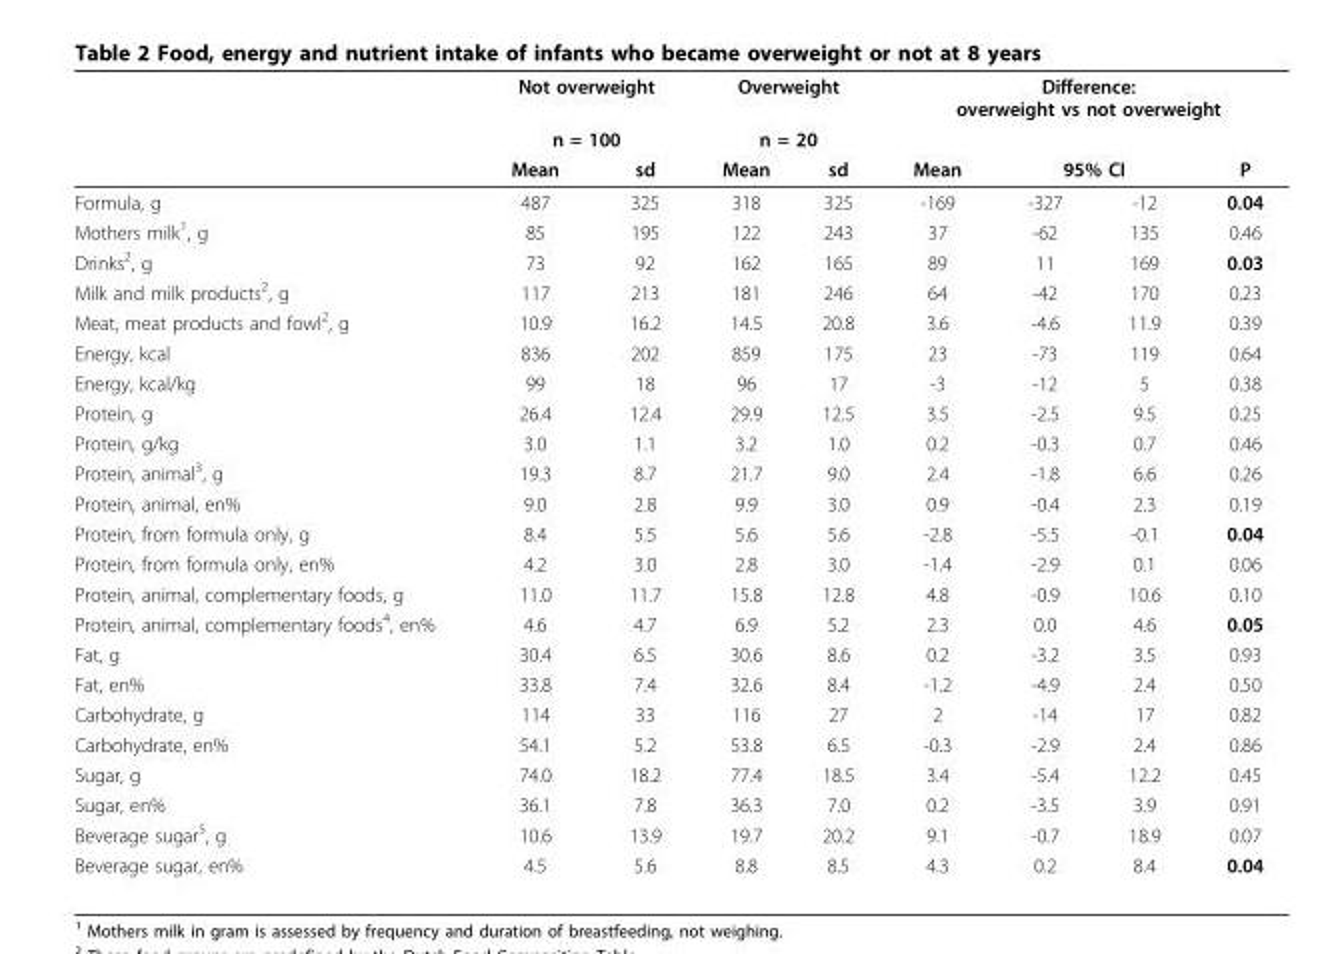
<table><thead><tr><td rowspan="3"></td><td rowspan="2" colspan="2">Not overweight n = 100</td><td rowspan="2" colspan="2">Overweight n = 20</td><td colspan="4">Difference: overweight vs not overweight</td></tr><tr><td rowspan="2">Mean</td><td></td><td></td><td rowspan="2">P</td></tr><tr><td>Mean</td><td>sd</td><td>Mean</td><td>sd</td><td colspan="2">95% CI</td></tr></thead><tbody><tr><td>Formula, g</td><td>487</td><td>325</td><td>318</td><td>325</td><td>-169</td><td>-327</td><td>-12</td><td>0.04</td></tr><tr><td>Mothers milk<sup>1</sup>, g</td><td>85</td><td>195</td><td>122</td><td>243</td><td>37</td><td>-62</td><td>135</td><td>0.46</td></tr><tr><td>Drinks<sup>2</sup>, g</td><td>73</td><td>92</td><td>162</td><td>165</td><td>89</td><td>11</td><td>169</td><td>0.03</td></tr><tr><td>Milk and milk products<sup>2</sup>, g</td><td>117</td><td>213</td><td>181</td><td>246</td><td>64</td><td>-42</td><td>170</td><td>0.23</td></tr><tr><td>Meat, meat products and fowl<sup>2</sup>, g</td><td>10.9</td><td>16.2</td><td>14.5</td><td>20.8</td><td>3.6</td><td>-4.6</td><td>11.9</td><td>0.39</td></tr><tr><td>Energy, kcal</td><td>836</td><td>202</td><td>859</td><td>175</td><td>23</td><td>-73</td><td>119</td><td>0.64</td></tr><tr><td>Energy, kcal/kg</td><td>99</td><td>18</td><td>96</td><td>17</td><td>-3</td><td>-12</td><td>5</td><td>0.38</td></tr><tr><td>Protein, g</td><td>26.4</td><td>12.4</td><td>29.9</td><td>12.5</td><td>3.5</td><td>-2.5</td><td>9.5</td><td>0.25</td></tr><tr><td>Protein, g/kg</td><td>3.0</td><td>1.1</td><td>3.2</td><td>1.0</td><td>0.2</td><td>-0.3</td><td>0.7</td><td>0.46</td></tr><tr><td>Protein, animal<sup>3</sup>, g</td><td>19.3</td><td>8.7</td><td>21.7</td><td>9.0</td><td>2.4</td><td>-1.8</td><td>6.6</td><td>0.26</td></tr><tr><td>Protein, animal, en%</td><td>9.0</td><td>2.8</td><td>9.9</td><td>3.0</td><td>0.9</td><td>-0.4</td><td>2.3</td><td>0.19</td></tr><tr><td>Protein, from formula only, g</td><td>8.4</td><td>5.5</td><td>5.6</td><td>5.6</td><td>-2.8</td><td>-5.5</td><td>-0.1</td><td>0.04</td></tr><tr><td>Protein, from formula only, en%</td><td>4.2</td><td>3.0</td><td>2.8</td><td>3.0</td><td>-1.4</td><td>-2.9</td><td>0.1</td><td>0.06</td></tr><tr><td>Protein, animal, complementary foods, g</td><td>11.0</td><td>11.7</td><td>15.8</td><td>12.8</td><td>4.8</td><td>-0.9</td><td>10.6</td><td>0.10</td></tr><tr><td>Protein, animal, complementary foods<sup>4</sup>, en%</td><td>4.6</td><td>4.7</td><td>6.9</td><td>5.2</td><td>2.3</td><td>0.0</td><td>4.6</td><td>0.05</td></tr><tr><td>Fat, g</td><td>30.4</td><td>6.5</td><td>30.6</td><td>8.6</td><td>0.2</td><td>-3.2</td><td>3.5</td><td>0.93</td></tr><tr><td>Fat, en%</td><td>33.8</td><td>7.4</td><td>32.6</td><td>8.4</td><td>-1.2</td><td>-4.9</td><td>2.4</td><td>0.50</td></tr><tr><td>Carbohydrate, g</td><td>114</td><td>33</td><td>116</td><td>27</td><td>2</td><td>-14</td><td>17</td><td>0.82</td></tr><tr><td>Carbohydrate, en%</td><td>54.1</td><td>5.2</td><td>53.8</td><td>6.5</td><td>-0.3</td><td>-2.9</td><td>2.4</td><td>0.86</td></tr><tr><td>Sugar, g</td><td>74.0</td><td>18.2</td><td>77.4</td><td>18.5</td><td>3.4</td><td>-5.4</td><td>12.2</td><td>0.45</td></tr><tr><td>Sugar, en%</td><td>36.1</td><td>7.8</td><td>36.3</td><td>7.0</td><td>0.2</td><td>-3.5</td><td>3.9</td><td>0.91</td></tr><tr><td>Beverage sugar<sup>5</sup>, g</td><td>10.6</td><td>13.9</td><td>19.7</td><td>20.2</td><td>9.1</td><td>-0.7</td><td>18.9</td><td>0.07</td></tr><tr><td>Beverage sugar, en%</td><td>4.5</td><td>5.6</td><td>8.8</td><td>8.5</td><td>4.3</td><td>0.2</td><td>8.4</td><td>0.04</td></tr></tbody></table>